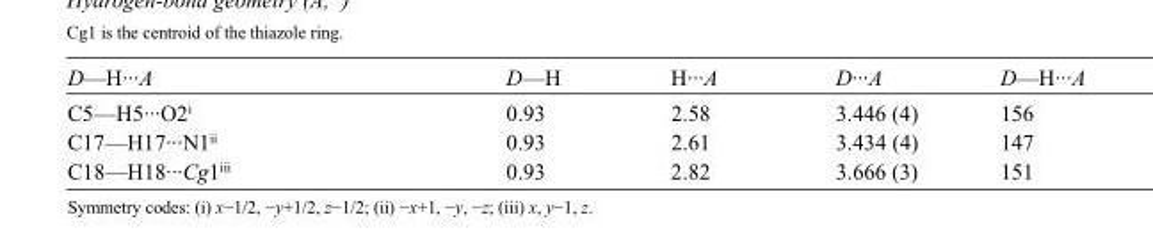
<table><tbody><tr><td>D—H···A</td><td>D—H</td><td>H···A</td><td>D···A</td><td>D—H···A</td></tr><tr><td>C5—H5···O2<sup>i</sup></td><td>0.93</td><td>2.58</td><td>3.446 (4)</td><td>156</td></tr><tr><td>C17—H17···N1<sup>ii</sup></td><td>0.93</td><td>2.61</td><td>3.434 (4)</td><td>147</td></tr><tr><td>C18—H18···Cg1<sup>iii</sup></td><td>0.93</td><td>2.82</td><td>3.666 (3)</td><td>151</td></tr></tbody></table>